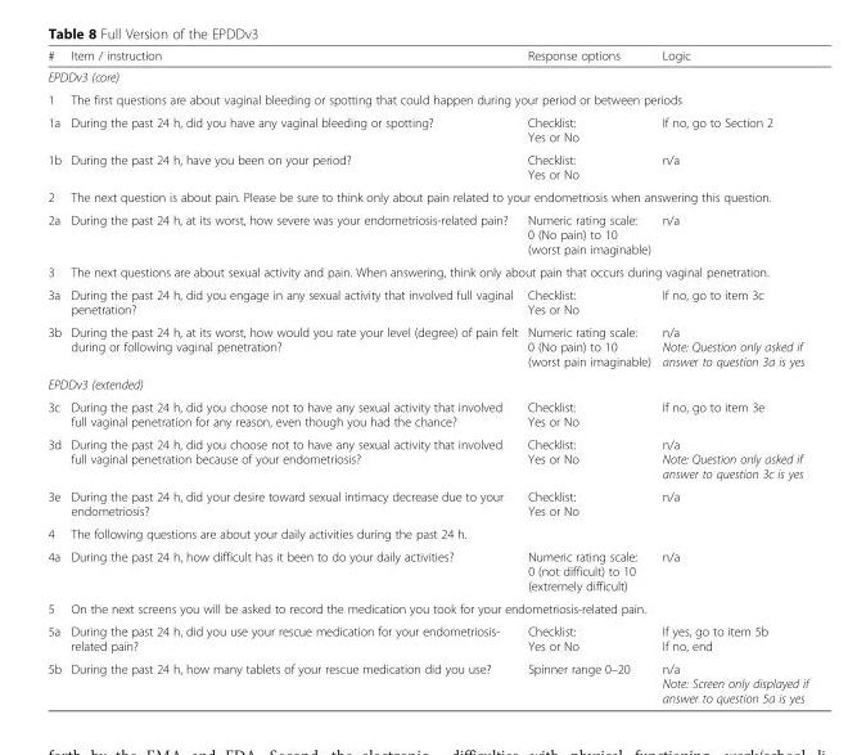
<table><thead><tr><td>#</td><td>Item / instruction</td><td>Response options</td><td>Logic</td></tr></thead><tbody><tr><td colspan="4">EPDDv3 (core)</td></tr><tr><td>1</td><td colspan="3">The first questions are about vaginal bleeding or spotting that could happen during your period or between periods</td></tr><tr><td>1a</td><td>During the past 24 h, did you have any vaginal bleeding or spotting?</td><td>Checklist: Yes or No</td><td>If no, go to Section 2</td></tr><tr><td>1b</td><td>During the past 24 h, have you been on your period?</td><td>Checklist: Yes or No</td><td>n/a</td></tr><tr><td>2</td><td colspan="3">The next question is about pain. Please be sure to think only about pain related to your endometriosis when answering this question.</td></tr><tr><td>2a</td><td>During the past 24 h, at its worst, how severe was your endometriosis-related pain?</td><td>Numeric rating scale: 0 (No pain) to 10 (worst pain imaginable)</td><td>n/a</td></tr><tr><td>3</td><td colspan="3">The next questions are about sexual activity and pain. When answering, think only about pain that occurs during vaginal penetration.</td></tr><tr><td>3a</td><td>During the past 24 h, did you engage in any sexual activity that involved full vaginal penetration?</td><td>Checklist: Yes or No</td><td>If no, go to item 3c</td></tr><tr><td>3b</td><td>During the past 24 h, at its worst, how would you rate your level (degree) of pain felt during or following vaginal penetration?</td><td>Numeric rating scale: 0 (No pain) to 10 (worst pain imaginable)</td><td>n/a Note: Question only asked if answer to question 3a is yes</td></tr><tr><td colspan="4">EPDDv3 (extended)</td></tr><tr><td>3c</td><td>During the past 24 h, did you choose not to have any sexual activity that involved full vaginal penetration for any reason, even though you had the chance?</td><td>Checklist: Yes or No</td><td>If no, go to item 3e</td></tr><tr><td>3d</td><td>During the past 24 h, did you choose not to have any sexual activity that involved full vaginal penetration because of your endometriosis?</td><td>Checklist: Yes or No</td><td>n/a Note: Question only asked if answer to question 3c is yes</td></tr><tr><td>3e</td><td>During the past 24 h, did your desire toward sexual intimacy decrease due to your endometriosis?</td><td>Checklist: Yes or No</td><td>n/a</td></tr><tr><td>4</td><td colspan="3">The following questions are about your daily activities during the past 24 h.</td></tr><tr><td>4a</td><td>During the past 24 h, how difficult has it been to do your daily activities?</td><td>Numeric rating scale: 0 (not difficult) to 10 (extremely difficult)</td><td>n/a</td></tr><tr><td>5</td><td colspan="3">On the next screens you will be asked to record the medication you took for your endometriosis-related pain.</td></tr><tr><td>5a</td><td>During the past 24 h, did you use your rescue medication for your endometriosis- related pain?</td><td>Checklist: Yes or No</td><td>If yes, go to item 5b If no, end</td></tr><tr><td>5b</td><td>During the past 24 h, how many tablets of your rescue medication did you use?</td><td>Spinner range 0–20</td><td>n/a Note: Screen only displayed if answer to question 5a is yes</td></tr></tbody></table>